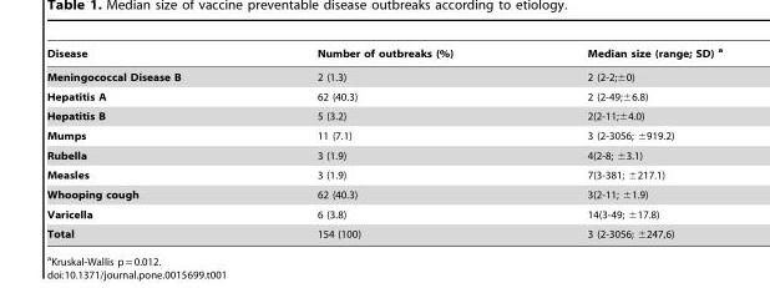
<table><thead><tr><td>Disease</td><td>Number of outbreaks (%)</td><td>Median size (range; SD) a</td></tr></thead><tbody><tr><td>Meningococcal Disease B</td><td>2 (1.3)</td><td>2 (2-2;±0)</td></tr><tr><td>Hepatitis A</td><td>62 (40.3)</td><td>2 (2-49;±6.8)</td></tr><tr><td>Hepatitis B</td><td>5 (3.2)</td><td>2(2-11;±4.0)</td></tr><tr><td>Mumps</td><td>11 (7.1)</td><td>3 (2-3056; ±919.2)</td></tr><tr><td>Rubella</td><td>3 (1.9)</td><td>4(2-8; ±3.1)</td></tr><tr><td>Measles</td><td>3 (1.9)</td><td>7(3-381; ±217.1)</td></tr><tr><td>Whooping cough</td><td>62 (40.3)</td><td>3(2-11; ±1.9)</td></tr><tr><td>Varicella</td><td>6 (3.8)</td><td>14(3-49; ±17.8)</td></tr><tr><td>Total</td><td>154 (100)</td><td>3 (2-3056; ±247,6)</td></tr></tbody></table>